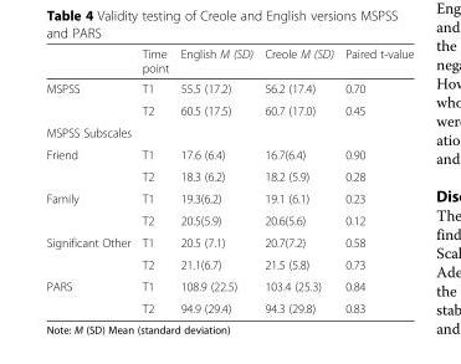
<table><thead><tr><td></td><td>Time point</td><td>English M (SD)</td><td>Creole M (SD)</td><td>Paired t-value</td></tr></thead><tbody><tr><td rowspan="2">MSPSS</td><td>T1</td><td>55.5 (17.2)</td><td>56.2 (17.4)</td><td>0.70</td></tr><tr><td>T2</td><td>60.5 (17.5)</td><td>60.7 (17.0)</td><td>0.45</td></tr><tr><td colspan="5">MSPSS Subscales</td></tr><tr><td rowspan="2">Friend</td><td>T1</td><td>17.6 (6.4)</td><td>16.7(6.4)</td><td>0.90</td></tr><tr><td>T2</td><td>18.3 (6.2)</td><td>18.2 (5.9)</td><td>0.28</td></tr><tr><td rowspan="2">Family</td><td>T1</td><td>19.3(6.2)</td><td>19.1 (6.1)</td><td>0.23</td></tr><tr><td>T2</td><td>20.5(5.9)</td><td>20.6(5.6)</td><td>0.12</td></tr><tr><td rowspan="2">Significant Other</td><td>T1</td><td>20.5 (7.1)</td><td>20.7(7.2)</td><td>0.58</td></tr><tr><td>T2</td><td>21.1(6.7)</td><td>21.5 (5.8)</td><td>0.73</td></tr><tr><td rowspan="2">PARS</td><td>T1</td><td>108.9 (22.5)</td><td>103.4 (25.3)</td><td>0.84</td></tr><tr><td>T2</td><td>94.9 (29.4)</td><td>94.3 (29.8)</td><td>0.83</td></tr></tbody></table>